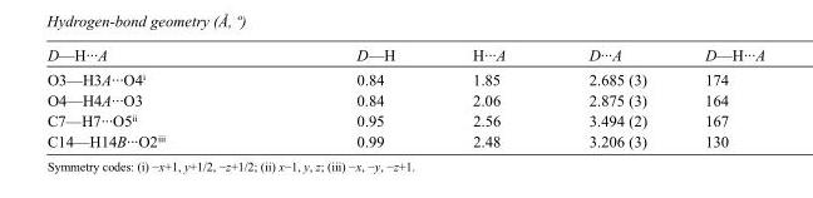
<table><tbody><tr><td>D—H···A</td><td>D—H</td><td>H···A</td><td>D···A</td><td>D—H···A</td></tr><tr><td>O3—H3A···O4<sup>i</sup></td><td>0.84</td><td>1.85</td><td>2.685 (3)</td><td>174</td></tr><tr><td>O4—H4A···O3</td><td>0.84</td><td>2.06</td><td>2.875 (3)</td><td>164</td></tr><tr><td>C7—H7···O5<sup>ii</sup></td><td>0.95</td><td>2.56</td><td>3.494 (2)</td><td>167</td></tr><tr><td>C14—H14B···O2<sup>iii</sup></td><td>0.99</td><td>2.48</td><td>3.206 (3)</td><td>130</td></tr></tbody></table>